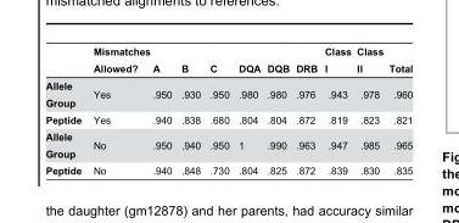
<table><thead><tr><td></td><td>Mismatches Allowed?</td><td>A</td><td>B</td><td>C</td><td>DQA</td><td>DQB</td><td>DRB</td><td>Class I</td><td>Class II</td><td>Total</td></tr></thead><tbody><tr><td>Allele Group</td><td>Yes</td><td>.950</td><td>.930</td><td>.950</td><td>.980</td><td>.980</td><td>.976</td><td>.943</td><td>.978</td><td>.960</td></tr><tr><td>Peptide</td><td>Yes</td><td>.940</td><td>.838</td><td>.680</td><td>.804</td><td>.804</td><td>.872</td><td>.819</td><td>.823</td><td>.821</td></tr><tr><td>Allele Group</td><td>No</td><td>.950</td><td>.940</td><td>.950</td><td>1</td><td>.990</td><td>.963</td><td>.947</td><td>.985</td><td>.965</td></tr><tr><td>Peptide</td><td>No</td><td>.940</td><td>.848</td><td>.730</td><td>.804</td><td>.825</td><td>.872</td><td>.839</td><td>.830</td><td>.835</td></tr></tbody></table>